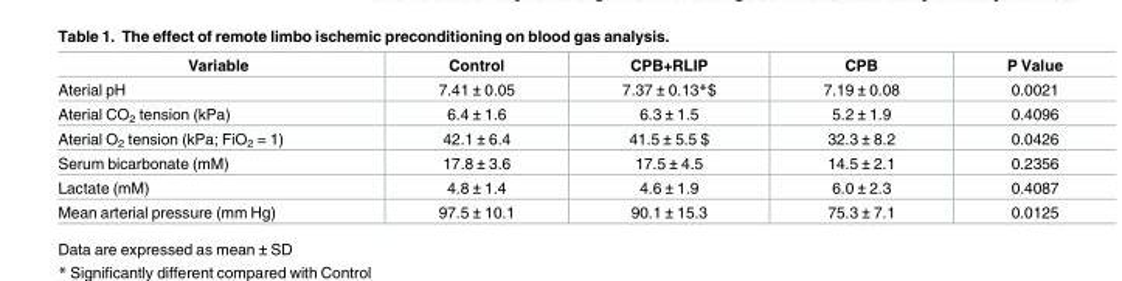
<table><thead><tr><td>Variable</td><td>Control</td><td>CPB+RLIP</td><td>CPB</td><td>P Value</td></tr></thead><tbody><tr><td>Aterial pH</td><td>7.41 ± 0.05</td><td>7.37 ± 0.13*$</td><td>7.19 ± 0.08</td><td>0.0021</td></tr><tr><td>Aterial CO<sub>2</sub> tension (kPa)</td><td>6.4 ± 1.6</td><td>6.3 ± 1.5</td><td>5.2 ± 1.9</td><td>0.4096</td></tr><tr><td>Aterial O<sub>2</sub> tension (kPa; FiO<sub>2</sub> = 1)</td><td>42.1 ± 6.4</td><td>41.5 ± 5.5 $</td><td>32.3 ± 8.2</td><td>0.0426</td></tr><tr><td>Serum bicarbonate (mM)</td><td>17.8 ± 3.6</td><td>17.5 ± 4.5</td><td>14.5 ± 2.1</td><td>0.2356</td></tr><tr><td>Lactate (mM)</td><td>4.8 ± 1.4</td><td>4.6 ± 1.9</td><td>6.0 ± 2.3</td><td>0.4087</td></tr><tr><td>Mean arterial pressure (mm Hg)</td><td>97.5 ± 10.1</td><td>90.1 ± 15.3</td><td>75.3 ± 7.1</td><td>0.0125</td></tr></tbody></table>